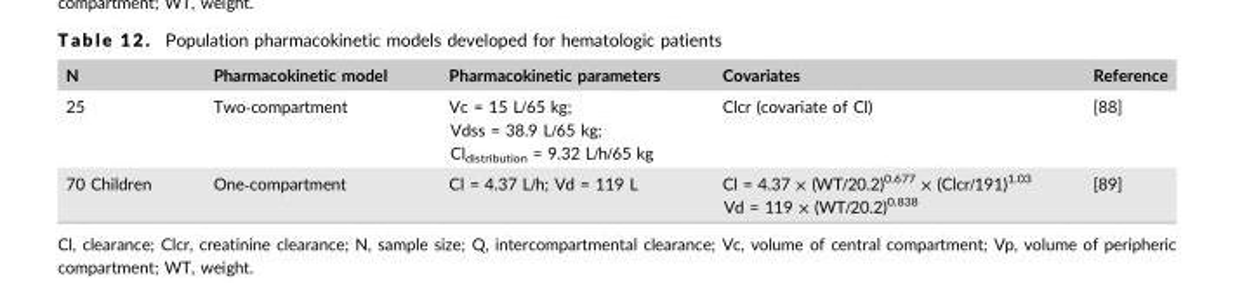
<table><thead><tr><td>N</td><td>Pharmacokinetic model</td><td>Pharmacokinetic parameters</td><td>Covariates</td><td>Reference</td></tr></thead><tbody><tr><td>25</td><td>Two‐compartment</td><td>Vc = 15 L/65 kg; Vdss = 38.9 L/65 kg; Cl<sub>distribution</sub> = 9.32 L/h/65 kg</td><td>Clcr (covariate of Cl)</td><td>[88]</td></tr><tr><td>70 Children</td><td>One‐compartment</td><td>Cl = 4.37 L/h; Vd = 119 L</td><td>Cl = 4.37 × (WT/20.2)<sup>0.677</sup> × (Clcr/191)<sup>1.03</sup> Vd = 119 × (WT/20.2)<sup>0.838</sup></td><td>[89]</td></tr></tbody></table>